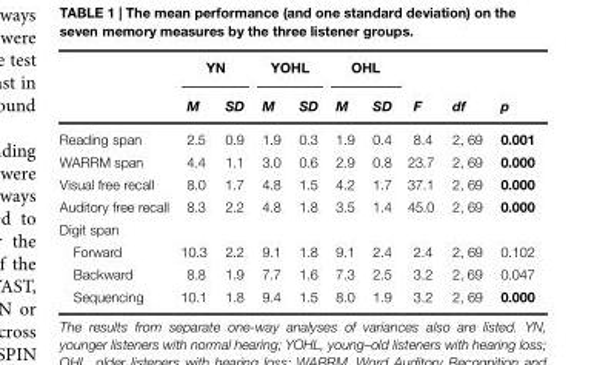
<table><thead><tr><td rowspan="2"></td><td colspan="2">YN</td><td colspan="2">YOHL</td><td colspan="2">OHL</td><td rowspan="2">F</td><td rowspan="2">df</td><td rowspan="2">p</td></tr><tr><td>M</td><td>SD</td><td>M</td><td>SD</td><td>M</td><td>SD</td></tr></thead><tbody><tr><td>Reading span</td><td>2.5</td><td>0.9</td><td>1.9</td><td>0.3</td><td>1.9</td><td>0.4</td><td>8.4</td><td>2, 69</td><td>0.001</td></tr><tr><td>WARRM span</td><td>4.4</td><td>1.1</td><td>3.0</td><td>0.6</td><td>2.9</td><td>0.8</td><td>23.7</td><td>2, 69</td><td>0.000</td></tr><tr><td>Visual free recall</td><td>8.0</td><td>1.7</td><td>4.8</td><td>1.5</td><td>4.2</td><td>1.7</td><td>37.1</td><td>2, 69</td><td>0.000</td></tr><tr><td>Auditory free recall</td><td>8.3</td><td>2.2</td><td>4.8</td><td>1.8</td><td>3.5</td><td>1.4</td><td>45.0</td><td>2, 69</td><td>0.000</td></tr><tr><td colspan="10">Digit span</td></tr><tr><td>Forward</td><td>10.3</td><td>2.2</td><td>9.1</td><td>1.8</td><td>9.1</td><td>2.4</td><td>2.4</td><td>2, 69</td><td>0.102</td></tr><tr><td>Backward</td><td>8.8</td><td>1.9</td><td>7.7</td><td>1.6</td><td>7.3</td><td>2.5</td><td>3.2</td><td>2, 69</td><td>0.047</td></tr><tr><td>Sequencing</td><td>10.1</td><td>1.8</td><td>9.4</td><td>1.5</td><td>8.0</td><td>1.9</td><td>3.2</td><td>2, 69</td><td>0.000</td></tr></tbody></table>